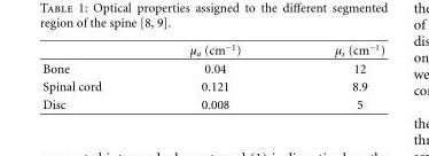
<table><thead><tr><td></td><td>μ<sub>a</sub> (cm<sup>−1</sup>)</td><td>μ<sub>s</sub> (cm<sup>−1</sup>)</td></tr></thead><tbody><tr><td>Bone</td><td>0.04</td><td>12</td></tr><tr><td>Spinal cord</td><td>0.121</td><td>8.9</td></tr><tr><td>Disc</td><td>0.008</td><td>5</td></tr></tbody></table>